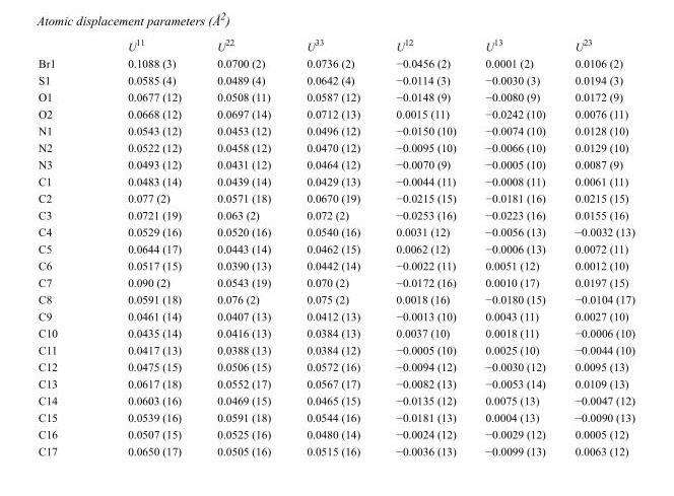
<table><thead><tr><td></td><td>U<sup>11</sup></td><td>U<sup>22</sup></td><td>U<sup>33</sup></td><td>U<sup>12</sup></td><td>U<sup>13</sup></td><td>U<sup>23</sup></td></tr></thead><tbody><tr><td>Br1</td><td>0.1088 (3)</td><td>0.0700 (2)</td><td>0.0736 (2)</td><td>−0.0456 (2)</td><td>0.0001 (2)</td><td>0.0106 (2)</td></tr><tr><td>S1</td><td>0.0585 (4)</td><td>0.0489 (4)</td><td>0.0642 (4)</td><td>−0.0114 (3)</td><td>−0.0030 (3)</td><td>0.0194 (3)</td></tr><tr><td>O1</td><td>0.0677 (12)</td><td>0.0508 (11)</td><td>0.0587 (12)</td><td>−0.0148 (9)</td><td>−0.0080 (9)</td><td>0.0172 (9)</td></tr><tr><td>O2</td><td>0.0668 (12)</td><td>0.0697 (14)</td><td>0.0712 (13)</td><td>0.0015 (11)</td><td>−0.0242 (10)</td><td>0.0076 (11)</td></tr><tr><td>N1</td><td>0.0543 (12)</td><td>0.0453 (12)</td><td>0.0496 (12)</td><td>−0.0150 (10)</td><td>−0.0074 (10)</td><td>0.0128 (10)</td></tr><tr><td>N2</td><td>0.0522 (12)</td><td>0.0458 (12)</td><td>0.0470 (12)</td><td>−0.0095 (10)</td><td>−0.0066 (10)</td><td>0.0129 (10)</td></tr><tr><td>N3</td><td>0.0493 (12)</td><td>0.0431 (12)</td><td>0.0464 (12)</td><td>−0.0070 (9)</td><td>−0.0005 (10)</td><td>0.0087 (9)</td></tr><tr><td>C1</td><td>0.0483 (14)</td><td>0.0439 (14)</td><td>0.0429 (13)</td><td>−0.0044 (11)</td><td>−0.0008 (11)</td><td>0.0061 (11)</td></tr><tr><td>C2</td><td>0.077 (2)</td><td>0.0571 (18)</td><td>0.0670 (19)</td><td>−0.0215 (15)</td><td>−0.0181 (16)</td><td>0.0215 (15)</td></tr><tr><td>C3</td><td>0.0721 (19)</td><td>0.063 (2)</td><td>0.072 (2)</td><td>−0.0253 (16)</td><td>−0.0223 (16)</td><td>0.0155 (16)</td></tr><tr><td>C4</td><td>0.0529 (16)</td><td>0.0520 (16)</td><td>0.0540 (16)</td><td>0.0031 (12)</td><td>−0.0056 (13)</td><td>−0.0032 (13)</td></tr><tr><td>C5</td><td>0.0644 (17)</td><td>0.0443 (14)</td><td>0.0462 (15)</td><td>0.0062 (12)</td><td>−0.0006 (13)</td><td>0.0072 (11)</td></tr><tr><td>C6</td><td>0.0517 (15)</td><td>0.0390 (13)</td><td>0.0442 (14)</td><td>−0.0022 (11)</td><td>0.0051 (12)</td><td>0.0012 (10)</td></tr><tr><td>C7</td><td>0.090 (2)</td><td>0.0543 (19)</td><td>0.070 (2)</td><td>−0.0172 (16)</td><td>0.0010 (17)</td><td>0.0197 (15)</td></tr><tr><td>C8</td><td>0.0591 (18)</td><td>0.076 (2)</td><td>0.075 (2)</td><td>0.0018 (16)</td><td>−0.0180 (15)</td><td>−0.0104 (17)</td></tr><tr><td>C9</td><td>0.0461 (14)</td><td>0.0407 (13)</td><td>0.0412 (13)</td><td>−0.0013 (10)</td><td>0.0043 (11)</td><td>0.0027 (10)</td></tr><tr><td>C10</td><td>0.0435 (14)</td><td>0.0416 (13)</td><td>0.0384 (13)</td><td>0.0037 (10)</td><td>0.0018 (11)</td><td>−0.0006 (10)</td></tr><tr><td>C11</td><td>0.0417 (13)</td><td>0.0388 (13)</td><td>0.0384 (12)</td><td>−0.0005 (10)</td><td>0.0025 (10)</td><td>−0.0044 (10)</td></tr><tr><td>C12</td><td>0.0475 (15)</td><td>0.0506 (15)</td><td>0.0572 (16)</td><td>−0.0094 (12)</td><td>−0.0030 (12)</td><td>0.0095 (13)</td></tr><tr><td>C13</td><td>0.0617 (18)</td><td>0.0552 (17)</td><td>0.0567 (17)</td><td>−0.0082 (13)</td><td>−0.0053 (14)</td><td>0.0109 (13)</td></tr><tr><td>C14</td><td>0.0603 (16)</td><td>0.0469 (15)</td><td>0.0465 (15)</td><td>−0.0135 (12)</td><td>0.0075 (13)</td><td>−0.0047 (12)</td></tr><tr><td>C15</td><td>0.0539 (16)</td><td>0.0591 (18)</td><td>0.0544 (16)</td><td>−0.0181 (13)</td><td>0.0004 (13)</td><td>−0.0090 (13)</td></tr><tr><td>C16</td><td>0.0507 (15)</td><td>0.0525 (16)</td><td>0.0480 (14)</td><td>−0.0024 (12)</td><td>−0.0029 (12)</td><td>0.0005 (12)</td></tr><tr><td>C17</td><td>0.0650 (17)</td><td>0.0505 (16)</td><td>0.0515 (16)</td><td>−0.0036 (13)</td><td>−0.0099 (13)</td><td>0.0063 (12)</td></tr></tbody></table>